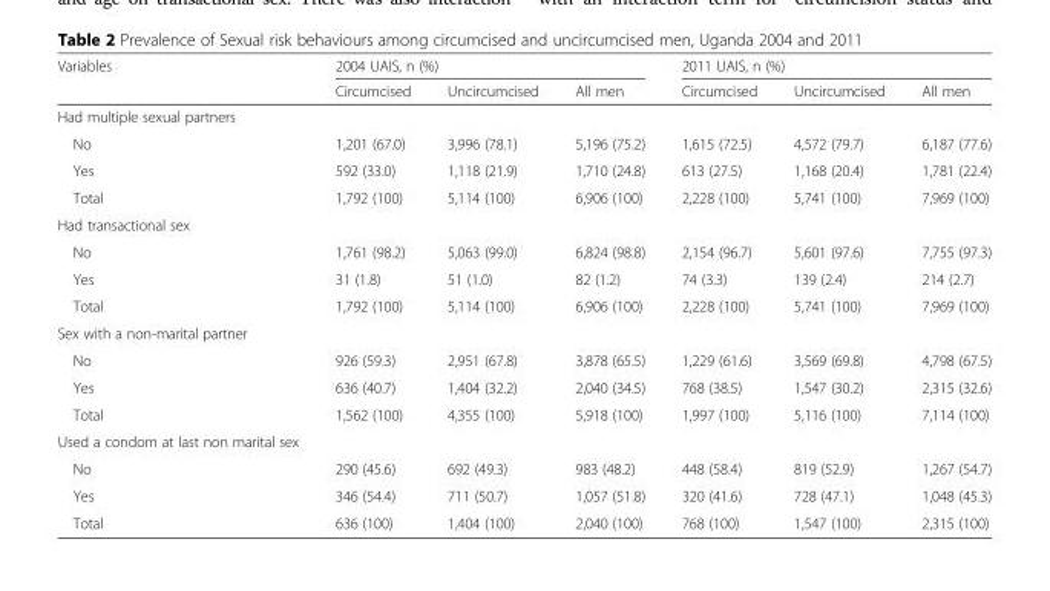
<table><thead><tr><td rowspan="2">Variables</td><td colspan="3">2004 UAIS, n (%)</td><td colspan="3">2011 UAIS, n (%)</td></tr><tr><td>Circumcised</td><td>Uncircumcised</td><td>All men</td><td>Circumcised</td><td>Uncircumcised</td><td>All men</td></tr></thead><tbody><tr><td colspan="7">Had multiple sexual partners</td></tr><tr><td>No</td><td>1,201 (67.0)</td><td>3,996 (78.1)</td><td>5,196 (75.2)</td><td>1,615 (72.5)</td><td>4,572 (79.7)</td><td>6,187 (77.6)</td></tr><tr><td>Yes</td><td>592 (33.0)</td><td>1,118 (21.9)</td><td>1,710 (24.8)</td><td>613 (27.5)</td><td>1,168 (20.4)</td><td>1,781 (22.4)</td></tr><tr><td>Total</td><td>1,792 (100)</td><td>5,114 (100)</td><td>6,906 (100)</td><td>2,228 (100)</td><td>5,741 (100)</td><td>7,969 (100)</td></tr><tr><td colspan="7">Had transactional sex</td></tr><tr><td>No</td><td>1,761 (98.2)</td><td>5,063 (99.0)</td><td>6,824 (98.8)</td><td>2,154 (96.7)</td><td>5,601 (97.6)</td><td>7,755 (97.3)</td></tr><tr><td>Yes</td><td>31 (1.8)</td><td>51 (1.0)</td><td>82 (1.2)</td><td>74 (3.3)</td><td>139 (2.4)</td><td>214 (2.7)</td></tr><tr><td>Total</td><td>1,792 (100)</td><td>5,114 (100)</td><td>6,906 (100)</td><td>2,228 (100)</td><td>5,741 (100)</td><td>7,969 (100)</td></tr><tr><td colspan="7">Sex with a non-marital partner</td></tr><tr><td>No</td><td>926 (59.3)</td><td>2,951 (67.8)</td><td>3,878 (65.5)</td><td>1,229 (61.6)</td><td>3,569 (69.8)</td><td>4,798 (67.5)</td></tr><tr><td>Yes</td><td>636 (40.7)</td><td>1,404 (32.2)</td><td>2,040 (34.5)</td><td>768 (38.5)</td><td>1,547 (30.2)</td><td>2,315 (32.6)</td></tr><tr><td>Total</td><td>1,562 (100)</td><td>4,355 (100)</td><td>5,918 (100)</td><td>1,997 (100)</td><td>5,116 (100)</td><td>7,114 (100)</td></tr><tr><td colspan="7">Used a condom at last non marital sex</td></tr><tr><td>No</td><td>290 (45.6)</td><td>692 (49.3)</td><td>983 (48.2)</td><td>448 (58.4)</td><td>819 (52.9)</td><td>1,267 (54.7)</td></tr><tr><td>Yes</td><td>346 (54.4)</td><td>711 (50.7)</td><td>1,057 (51.8)</td><td>320 (41.6)</td><td>728 (47.1)</td><td>1,048 (45.3)</td></tr><tr><td>Total</td><td>636 (100)</td><td>1,404 (100)</td><td>2,040 (100)</td><td>768 (100)</td><td>1,547 (100)</td><td>2,315 (100)</td></tr></tbody></table>